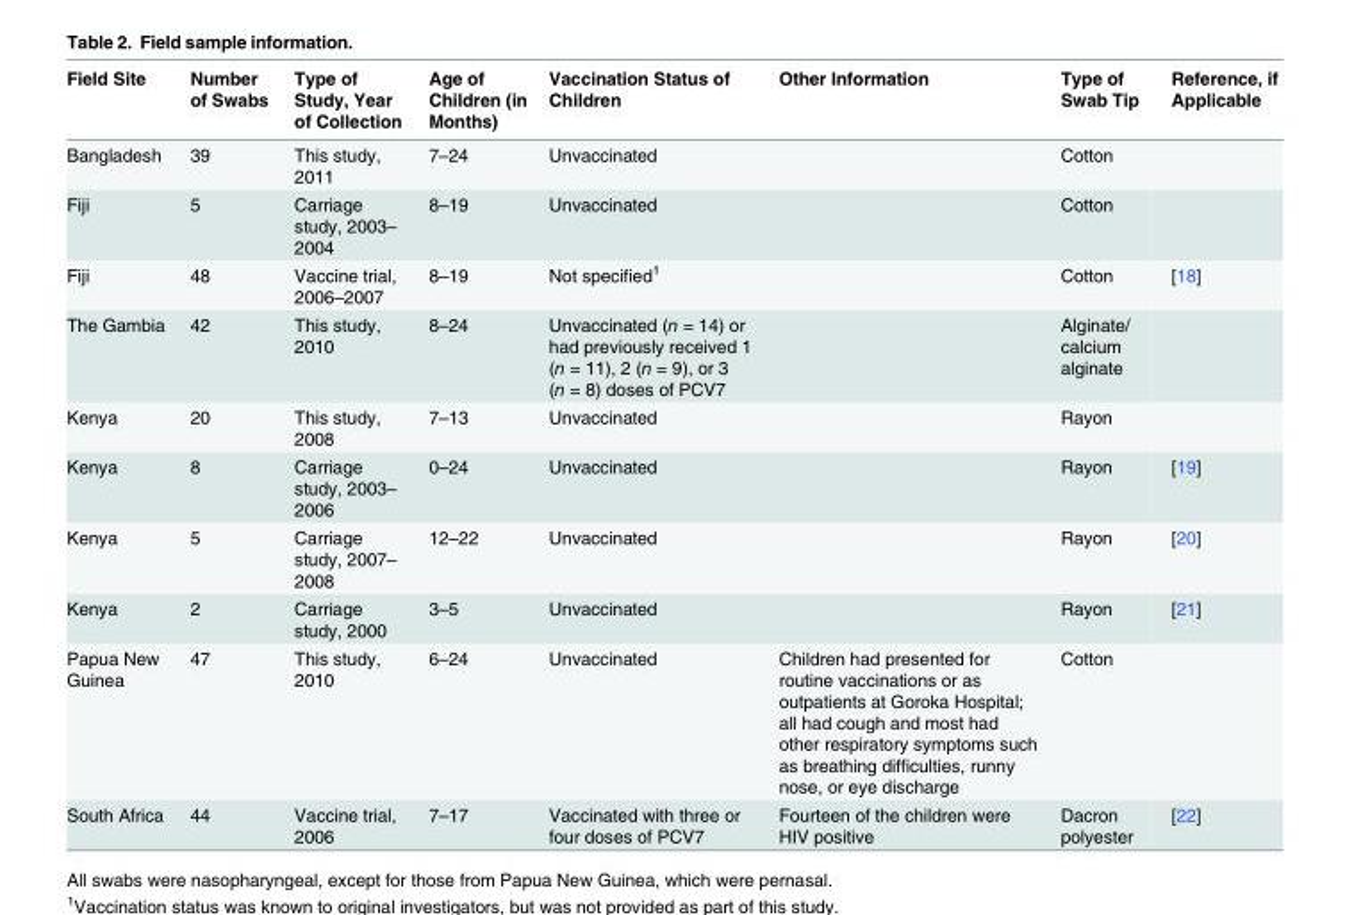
<table><thead><tr><td>Field Site</td><td>Number of Swabs</td><td>Type of Study, Year of Collection</td><td>Age of Children (in Months)</td><td>Vaccination Status of Children</td><td>Other Information</td><td>Type of Swab Tip</td><td>Reference, if Applicable</td></tr></thead><tbody><tr><td>Bangladesh</td><td>39</td><td>This study, 2011</td><td>7–24</td><td>Unvaccinated</td><td></td><td>Cotton</td><td></td></tr><tr><td>Fiji</td><td>5</td><td>Carriage study, 2003– 2004</td><td>8–19</td><td>Unvaccinated</td><td></td><td>Cotton</td><td></td></tr><tr><td>Fiji</td><td>48</td><td>Vaccine trial, 2006–2007</td><td>8–19</td><td>Not specified<sup>1</sup></td><td></td><td>Cotton</td><td>[18]</td></tr><tr><td>The Gambia</td><td>42</td><td>This study, 2010</td><td>8–24</td><td>Unvaccinated (n = 14) or had previously received 1 (n = 11), 2 (n = 9), or 3 (n = 8) doses of PCV7</td><td></td><td>Alginate/ calcium alginate</td><td></td></tr><tr><td>Kenya</td><td>20</td><td>This study, 2008</td><td>7–13</td><td>Unvaccinated</td><td></td><td>Rayon</td><td></td></tr><tr><td>Kenya</td><td>8</td><td>Carriage study, 2003– 2006</td><td>0–24</td><td>Unvaccinated</td><td></td><td>Rayon</td><td>[19]</td></tr><tr><td>Kenya</td><td>5</td><td>Carriage study, 2007– 2008</td><td>12–22</td><td>Unvaccinated</td><td></td><td>Rayon</td><td>[20]</td></tr><tr><td>Kenya</td><td>2</td><td>Carriage study, 2000</td><td>3–5</td><td>Unvaccinated</td><td></td><td>Rayon</td><td>[21]</td></tr><tr><td>Papua New Guinea</td><td>47</td><td>This study, 2010</td><td>6–24</td><td>Unvaccinated</td><td>Children had presented for routine vaccinations or as outpatients at Goroka Hospital; all had cough and most had other respiratory symptoms such as breathing difficulties, runny nose, or eye discharge</td><td>Cotton</td><td></td></tr><tr><td>South Africa</td><td>44</td><td>Vaccine trial, 2006</td><td>7–17</td><td>Vaccinated with three or four doses of PCV7</td><td>Fourteen of the children were HIV positive</td><td>Dacron polyester</td><td>[22]</td></tr></tbody></table>